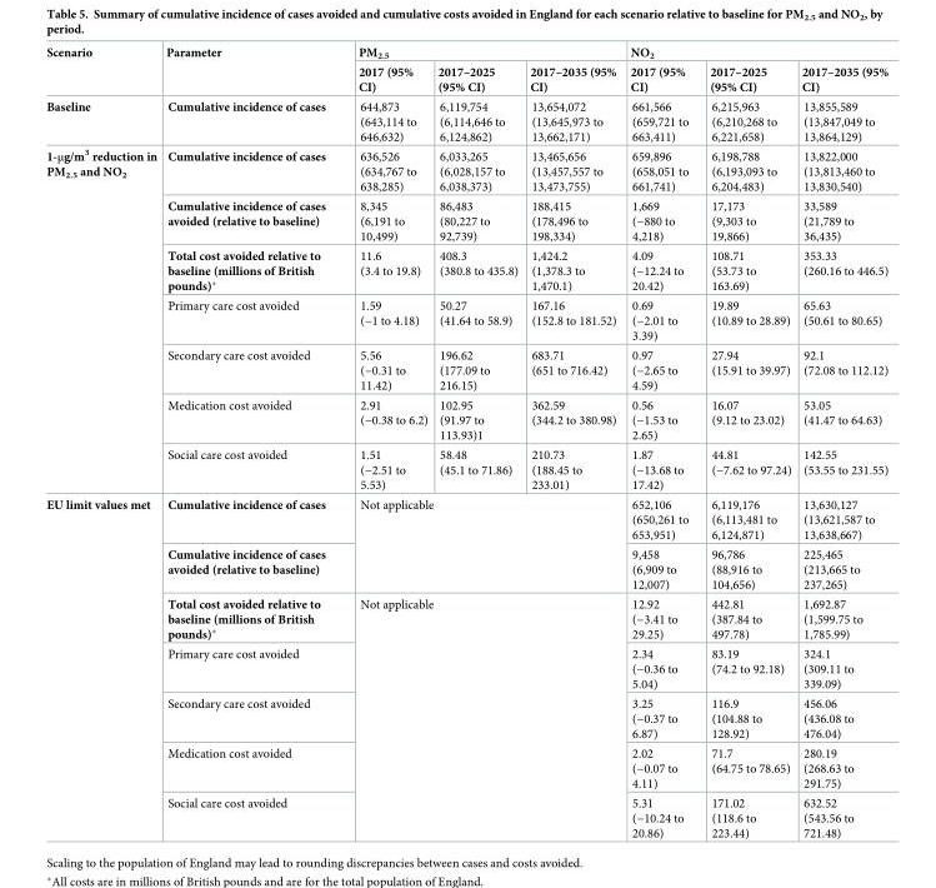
<table><thead><tr><td rowspan="2">Scenario</td><td rowspan="2">Parameter</td><td colspan="3">PM<sub>2.5</sub></td><td colspan="3">NO<sub>2</sub></td></tr><tr><td>2017 (95% CI)</td><td>2017–2025 (95% CI)</td><td>2017–2035 (95% CI)</td><td>2017 (95% CI)</td><td>2017–2025 (95% CI)</td><td>2017–2035 (95% CI)</td></tr></thead><tbody><tr><td>Baseline</td><td>Cumulative incidence of cases</td><td>644,873 (643,114 to 646,632)</td><td>6,119,754 (6,114,646 to 6,124,862)</td><td>13,654,072 (13,645,973 to 13,662,171)</td><td>661,566 (659,721 to 663,411)</td><td>6,215,963 (6,210,268 to 6,221,658)</td><td>13,855,589 (13,847,049 to 13,864,129)</td></tr><tr><td rowspan="7">1-μg/m<sup>3</sup> reduction in PM<sub>2.5</sub> and NO<sub>2</sub></td><td>Cumulative incidence of cases</td><td>636,526 (634,767 to 638,285)</td><td>6,033,265 (6,028,157 to 6,038,373)</td><td>13,465,656 (13,457,557 to 13,473,755)</td><td>659,896 (658,051 to 661,741)</td><td>6,198,788 (6,193,093 to 6,204,483)</td><td>13,822,000 (13,813,460 to 13,830,540)</td></tr><tr><td>Cumulative incidence of cases avoided (relative to baseline)</td><td>8,345 (6,191 to 10,499)</td><td>86,483 (80,227 to 92,739)</td><td>188,415 (178,496 to 198,334)</td><td>1,669 (−880 to 4,218)</td><td>17,173 (9,303 to 19,866)</td><td>33,589 (21,789 to 36,435)</td></tr><tr><td>Total cost avoided relative to baseline (millions of British pounds)*</td><td>11.6 (3.4 to 19.8)</td><td>408.3 (380.8 to 435.8)</td><td>1,424.2 (1,378.3 to 1,470.1)</td><td>4.09 (−12.24 to 20.42)</td><td>108.71 (53.73 to 163.69)</td><td>353.33 (260.16 to 446.5)</td></tr><tr><td>Primary care cost avoided</td><td>1.59 (−1 to 4.18)</td><td>50.27 (41.64 to 58.9)</td><td>167.16 (152.8 to 181.52)</td><td>0.69 (−2.01 to 3.39)</td><td>19.89 (10.89 to 28.89)</td><td>65.63 (50.61 to 80.65)</td></tr><tr><td>Secondary care cost avoided</td><td>5.56 (−0.31 to 11.42)</td><td>196.62 (177.09 to 216.15)</td><td>683.71 (651 to 716.42)</td><td>0.97 (−2.65 to 4.59)</td><td>27.94 (15.91 to 39.97)</td><td>92.1 (72.08 to 112.12)</td></tr><tr><td>Medication cost avoided</td><td>2.91 (−0.38 to 6.2)</td><td>102.95 (91.97 to 113.93)1</td><td>362.59 (344.2 to 380.98)</td><td>0.56 (−1.53 to 2.65)</td><td>16.07 (9.12 to 23.02)</td><td>53.05 (41.47 to 64.63)</td></tr><tr><td>Social care cost avoided</td><td>1.51 (−2.51 to 5.53)</td><td>58.48 (45.1 to 71.86)</td><td>210.73 (188.45 to 233.01)</td><td>1.87 (−13.68 to 17.42)</td><td>44.81 (−7.62 to 97.24)</td><td>142.55 (53.55 to 231.55)</td></tr><tr><td rowspan="7">EU limit values met</td><td>Cumulative incidence of cases</td><td rowspan="2" colspan="3">Not applicable</td><td>652,106 (650,261 to 653,951)</td><td>6,119,176 (6,113,481 to 6,124,871)</td><td>13,630,127 (13,621,587 to 13,638,667)</td></tr><tr><td>Cumulative incidence of cases avoided (relative to baseline)</td><td>9,458 (6,909 to 12,007)</td><td>96,786 (88,916 to 104,656)</td><td>225,465 (213,665 to 237,265)</td></tr><tr><td>Total cost avoided relative to baseline (millions of British pounds)*</td><td rowspan="5" colspan="3">Not applicable</td><td>12.92 (−3.41 to 29.25)</td><td>442.81 (387.84 to 497.78)</td><td>1,692.87 (1,599.75 to 1,785.99)</td></tr><tr><td>Primary care cost avoided</td><td>2.34 (−0.36 to 5.04)</td><td>83.19 (74.2 to 92.18)</td><td>324.1 (309.11 to 339.09)</td></tr><tr><td>Secondary care cost avoided</td><td>3.25 (−0.37 to 6.87)</td><td>116.9 (104.88 to 128.92)</td><td>456.06 (436.08 to 476.04)</td></tr><tr><td>Medication cost avoided</td><td>2.02 (−0.07 to 4.11)</td><td>71.7 (64.75 to 78.65)</td><td>280.19 (268.63 to 291.75)</td></tr><tr><td>Social care cost avoided</td><td>5.31 (−10.24 to 20.86)</td><td>171.02 (118.6 to 223.44)</td><td>632.52 (543.56 to 721.48)</td></tr></tbody></table>